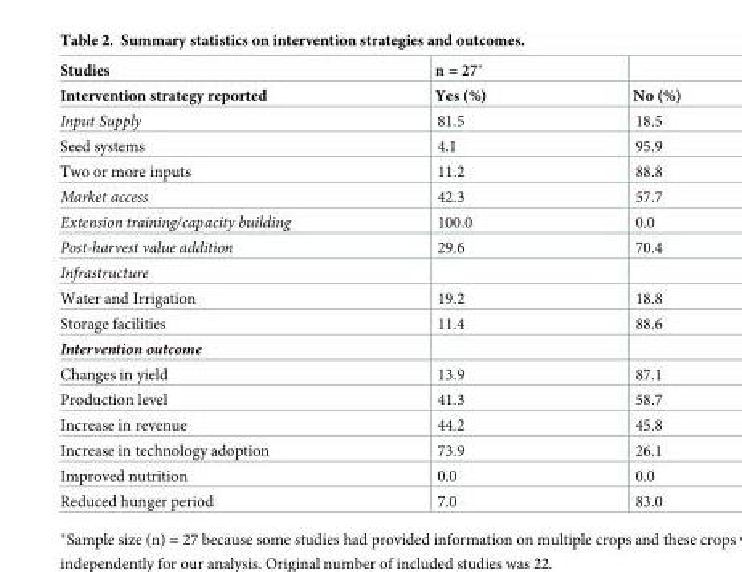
<table><thead><tr><td rowspan="2">Studies Intervention strategy reported</td><td rowspan="2">n = 27* Yes (%)</td><td rowspan="2">No (%)</td></tr><tr></tr></thead><tbody><tr><td>Input Supply</td><td>81.5</td><td>18.5</td></tr><tr><td>Seed systems</td><td>4.1</td><td>95.9</td></tr><tr><td>Two or more inputs</td><td>11.2</td><td>88.8</td></tr><tr><td>Market access</td><td>42.3</td><td>57.7</td></tr><tr><td>Extension training/capacity building</td><td>100.0</td><td>0.0</td></tr><tr><td>Post-harvest value addition</td><td>29.6</td><td>70.4</td></tr><tr><td colspan="3">Infrastructure</td></tr><tr><td>Water and Irrigation</td><td>19.2</td><td>18.8</td></tr><tr><td>Storage facilities</td><td>11.4</td><td>88.6</td></tr><tr><td colspan="3">Intervention outcome</td></tr><tr><td>Changes in yield</td><td>13.9</td><td>87.1</td></tr><tr><td>Production level</td><td>41.3</td><td>58.7</td></tr><tr><td>Increase in revenue</td><td>44.2</td><td>45.8</td></tr><tr><td>Increase in technology adoption</td><td>73.9</td><td>26.1</td></tr><tr><td>Improved nutrition</td><td>0.0</td><td>0.0</td></tr><tr><td>Reduced hunger period</td><td>7.0</td><td>83.0</td></tr></tbody></table>